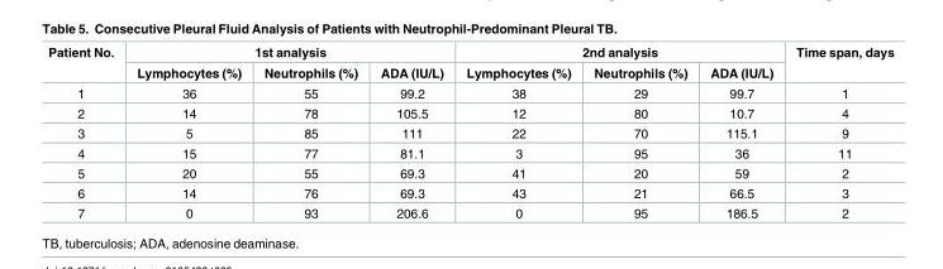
<table><thead><tr><td rowspan="2">Patient No.</td><td colspan="3">1st analysis</td><td colspan="3">2nd analysis</td><td rowspan="2">Time span, days</td></tr><tr><td>Lymphocytes (%)</td><td>Neutrophils (%)</td><td>ADA (IU/L)</td><td>Lymphocytes (%)</td><td>Neutrophils (%)</td><td>ADA (IU/L)</td></tr></thead><tbody><tr><td>1</td><td>36</td><td>55</td><td>99.2</td><td>38</td><td>29</td><td>99.7</td><td>1</td></tr><tr><td>2</td><td>14</td><td>78</td><td>105.5</td><td>12</td><td>80</td><td>10.7</td><td>4</td></tr><tr><td>3</td><td>5</td><td>85</td><td>111</td><td>22</td><td>70</td><td>115.1</td><td>9</td></tr><tr><td>4</td><td>15</td><td>77</td><td>81.1</td><td>3</td><td>95</td><td>36</td><td>11</td></tr><tr><td>5</td><td>20</td><td>55</td><td>69.3</td><td>41</td><td>20</td><td>59</td><td>2</td></tr><tr><td>6</td><td>14</td><td>76</td><td>69.3</td><td>43</td><td>21</td><td>66.5</td><td>3</td></tr><tr><td>7</td><td>0</td><td>93</td><td>206.6</td><td>0</td><td>95</td><td>186.5</td><td>2</td></tr></tbody></table>